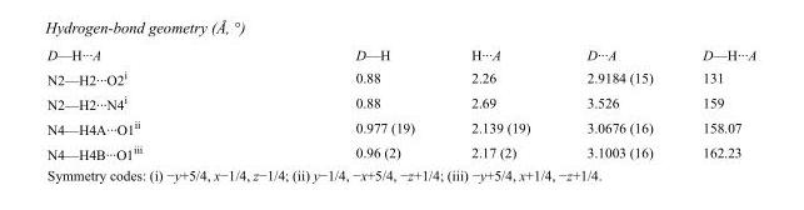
<table><tbody><tr><td>D—H···A</td><td>D—H</td><td>H···A</td><td>D···A</td><td>D—H···A</td></tr><tr><td>N2—H2···O2<sup>i</sup></td><td>0.88</td><td>2.26</td><td>2.9184 (15)</td><td>131</td></tr><tr><td>N2—H2···N4<sup>i</sup></td><td>0.88</td><td>2.69</td><td>3.526</td><td>159</td></tr><tr><td>N4—H4A···O1<sup>ii</sup></td><td>0.977 (19)</td><td>2.139 (19)</td><td>3.0676 (16)</td><td>158.07</td></tr><tr><td>N4—H4B···O1<sup>iii</sup></td><td>0.96 (2)</td><td>2.17 (2)</td><td>3.1003 (16)</td><td>162.23</td></tr></tbody></table>